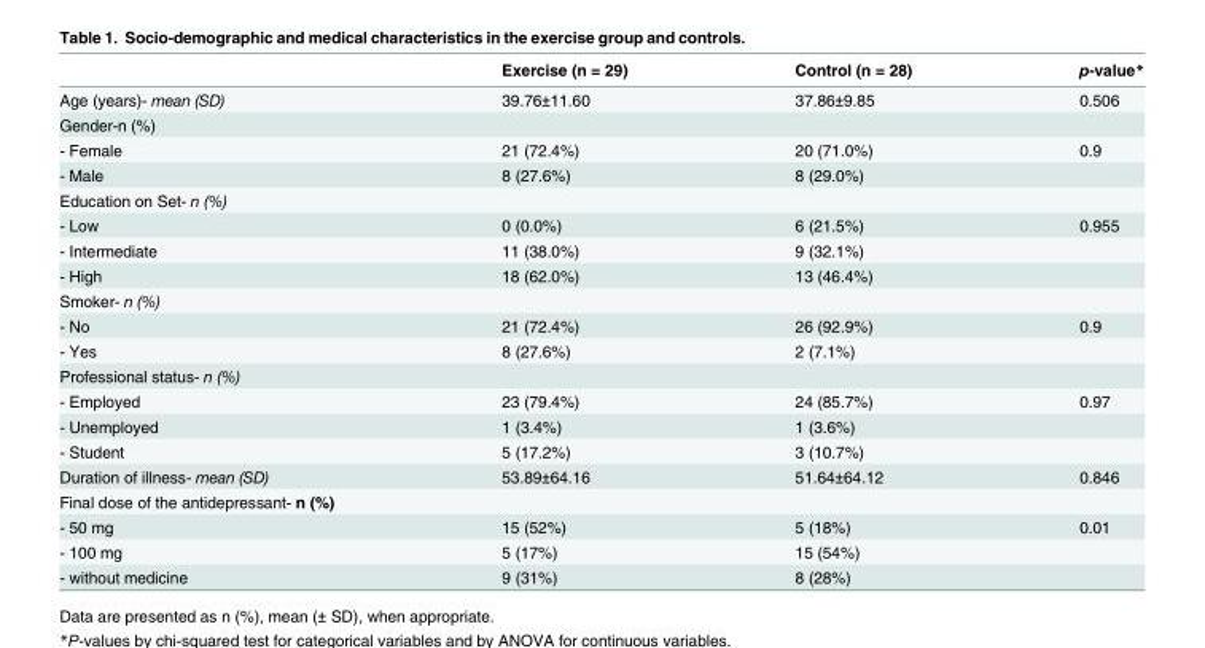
<table><thead><tr><td></td><td>Exercise (n = 29)</td><td>Control (n = 28)</td><td>p-value*</td></tr></thead><tbody><tr><td>Age (years)- mean (SD)</td><td>39.76±11.60</td><td>37.86±9.85</td><td>0.506</td></tr><tr><td colspan="4">Gender-n (%)</td></tr><tr><td>- Female</td><td>21 (72.4%)</td><td>20 (71.0%)</td><td>0.9</td></tr><tr><td>- Male</td><td>8 (27.6%)</td><td>8 (29.0%)</td><td></td></tr><tr><td colspan="4">Education on Set- n (%)</td></tr><tr><td>- Low</td><td>0 (0.0%)</td><td>6 (21.5%)</td><td>0.955</td></tr><tr><td>- Intermediate</td><td>11 (38.0%)</td><td>9 (32.1%)</td><td></td></tr><tr><td>- High</td><td>18 (62.0%)</td><td>13 (46.4%)</td><td></td></tr><tr><td colspan="4">Smoker- n (%)</td></tr><tr><td>- No</td><td>21 (72.4%)</td><td>26 (92.9%)</td><td>0.9</td></tr><tr><td>- Yes</td><td>8 (27.6%)</td><td>2 (7.1%)</td><td></td></tr><tr><td colspan="4">Professional status- n (%)</td></tr><tr><td>- Employed</td><td>23 (79.4%)</td><td>24 (85.7%)</td><td>0.97</td></tr><tr><td>- Unemployed</td><td>1 (3.4%)</td><td>1 (3.6%)</td><td></td></tr><tr><td>- Student</td><td>5 (17.2%)</td><td>3 (10.7%)</td><td></td></tr><tr><td>Duration of illness- mean (SD)</td><td>53.89±64.16</td><td>51.64±64.12</td><td>0.846</td></tr><tr><td colspan="4">Final dose of the antidepressant- n (%)</td></tr><tr><td>- 50 mg</td><td>15 (52%)</td><td>5 (18%)</td><td>0.01</td></tr><tr><td>- 100 mg</td><td>5 (17%)</td><td>15 (54%)</td><td></td></tr><tr><td>- without medicine</td><td>9 (31%)</td><td>8 (28%)</td><td></td></tr></tbody></table>